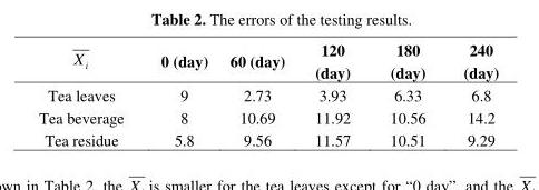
<table><thead><tr><td>i X</td><td>0 (day)</td><td>60 (day)</td><td>120 (day)</td><td>180 (day)</td><td>240 (day)</td></tr></thead><tbody><tr><td>Tea leaves</td><td>9</td><td>2.73</td><td>3.93</td><td>6.33</td><td>6.8</td></tr><tr><td>Tea beverage</td><td>8</td><td>10.69</td><td>11.92</td><td>10.56</td><td>14.2</td></tr><tr><td>Tea residue</td><td>5.8</td><td>9.56</td><td>11.57</td><td>10.51</td><td>9.29</td></tr></tbody></table>